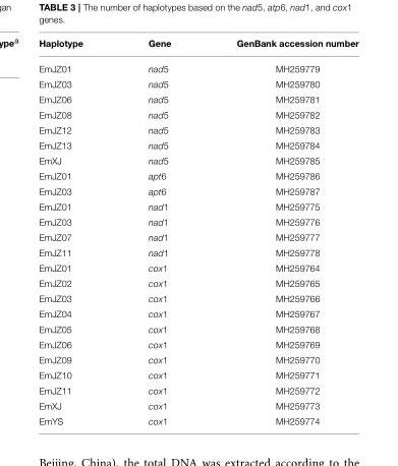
<table><thead><tr><td>Haplotype</td><td>Gene</td><td>GenBank accession number</td></tr></thead><tbody><tr><td>EmJZ01</td><td>nad5</td><td>MH259779</td></tr><tr><td>EmJZ03</td><td>nad5</td><td>MH259780</td></tr><tr><td>EmJZ06</td><td>nad5</td><td>MH259781</td></tr><tr><td>EmJZ08</td><td>nad5</td><td>MH259782</td></tr><tr><td>EmJZ12</td><td>nad5</td><td>MH259783</td></tr><tr><td>EmJZ13</td><td>nad5</td><td>MH259784</td></tr><tr><td>EmXJ</td><td>nad5</td><td>MH259785</td></tr><tr><td>EmJZ01</td><td>apt6</td><td>MH259786</td></tr><tr><td>EmJZ03</td><td>apt6</td><td>MH259787</td></tr><tr><td>EmJZ01</td><td>nad1</td><td>MH259775</td></tr><tr><td>EmJZ03</td><td>nad1</td><td>MH259776</td></tr><tr><td>EmJZ07</td><td>nad1</td><td>MH259777</td></tr><tr><td>EmJZ11</td><td>nad1</td><td>MH259778</td></tr><tr><td>EmJZ01</td><td>cox1</td><td>MH259764</td></tr><tr><td>EmJZ02</td><td>cox1</td><td>MH259765</td></tr><tr><td>EmJZ03</td><td>cox1</td><td>MH259766</td></tr><tr><td>EmJZ04</td><td>cox1</td><td>MH259767</td></tr><tr><td>EmJZ05</td><td>cox1</td><td>MH259768</td></tr><tr><td>EmJZ06</td><td>cox1</td><td>MH259769</td></tr><tr><td>EmJZ09</td><td>cox1</td><td>MH259770</td></tr><tr><td>EmJZ10</td><td>cox1</td><td>MH259771</td></tr><tr><td>EmJZ11</td><td>cox1</td><td>MH259772</td></tr><tr><td>EmXJ</td><td>cox1</td><td>MH259773</td></tr><tr><td>EmYS</td><td>cox1</td><td>MH259774</td></tr></tbody></table>